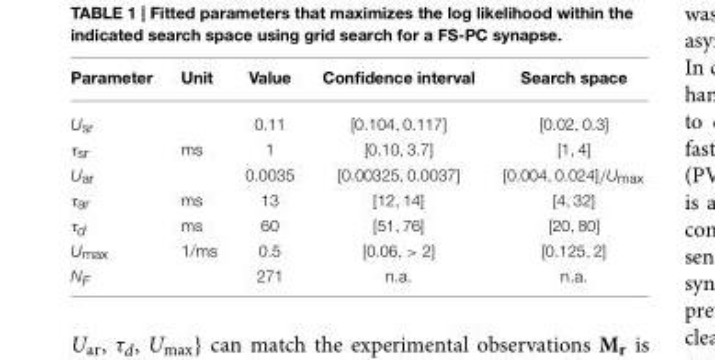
<table><thead><tr><td>Parameter</td><td>Unit</td><td>Value</td><td>Confidence interval</td><td>Search space</td></tr></thead><tbody><tr><td>U<sub>sr</sub></td><td></td><td>0.11</td><td>[0.104, 0.117]</td><td>[0.02, 0.3]</td></tr><tr><td>τ<sub>sr</sub></td><td>ms</td><td>1</td><td>[0.10, 3.7]</td><td>[1, 4]</td></tr><tr><td>U<sub>ar</sub></td><td></td><td>0.0035</td><td>[0.00325, 0.0037]</td><td>[0.004, 0.024]/U<sub>max</sub></td></tr><tr><td>τ<sub>ar</sub></td><td>ms</td><td>13</td><td>[12, 14]</td><td>[4, 32]</td></tr><tr><td>τ<sub>d</sub></td><td>ms</td><td>60</td><td>[51, 76]</td><td>[20, 80]</td></tr><tr><td>U<sub>max</sub></td><td>1/ms</td><td>0.5</td><td>[0.06, &gt; 2]</td><td>[0.125, 2]</td></tr><tr><td>N<sub>F</sub></td><td></td><td>271</td><td>n.a.</td><td>n.a.</td></tr></tbody></table>